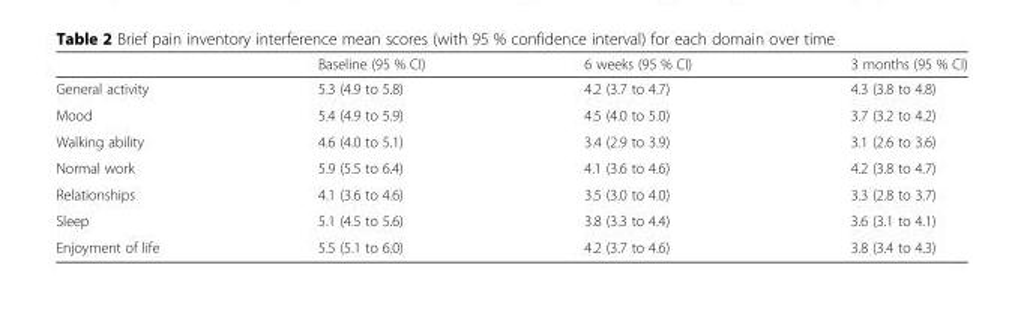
<table><thead><tr><td></td><td>Baseline (95 % CI)</td><td>6 weeks (95 % CI)</td><td>3 months (95 % CI)</td></tr></thead><tbody><tr><td>General activity</td><td>5.3 (4.9 to 5.8)</td><td>4.2 (3.7 to 4.7)</td><td>4.3 (3.8 to 4.8)</td></tr><tr><td>Mood</td><td>5.4 (4.9 to 5.9)</td><td>4.5 (4.0 to 5.0)</td><td>3.7 (3.2 to 4.2)</td></tr><tr><td>Walking ability</td><td>4.6 (4.0 to 5.1)</td><td>3.4 (2.9 to 3.9)</td><td>3.1 (2.6 to 3.6)</td></tr><tr><td>Normal work</td><td>5.9 (5.5 to 6.4)</td><td>4.1 (3.6 to 4.6)</td><td>4.2 (3.8 to 4.7)</td></tr><tr><td>Relationships</td><td>4.1 (3.6 to 4.6)</td><td>3.5 (3.0 to 4.0)</td><td>3.3 (2.8 to 3.7)</td></tr><tr><td>Sleep</td><td>5.1 (4.5 to 5.6)</td><td>3.8 (3.3 to 4.4)</td><td>3.6 (3.1 to 4.1)</td></tr><tr><td>Enjoyment of life</td><td>5.5 (5.1 to 6.0)</td><td>4.2 (3.7 to 4.6)</td><td>3.8 (3.4 to 4.3)</td></tr></tbody></table>